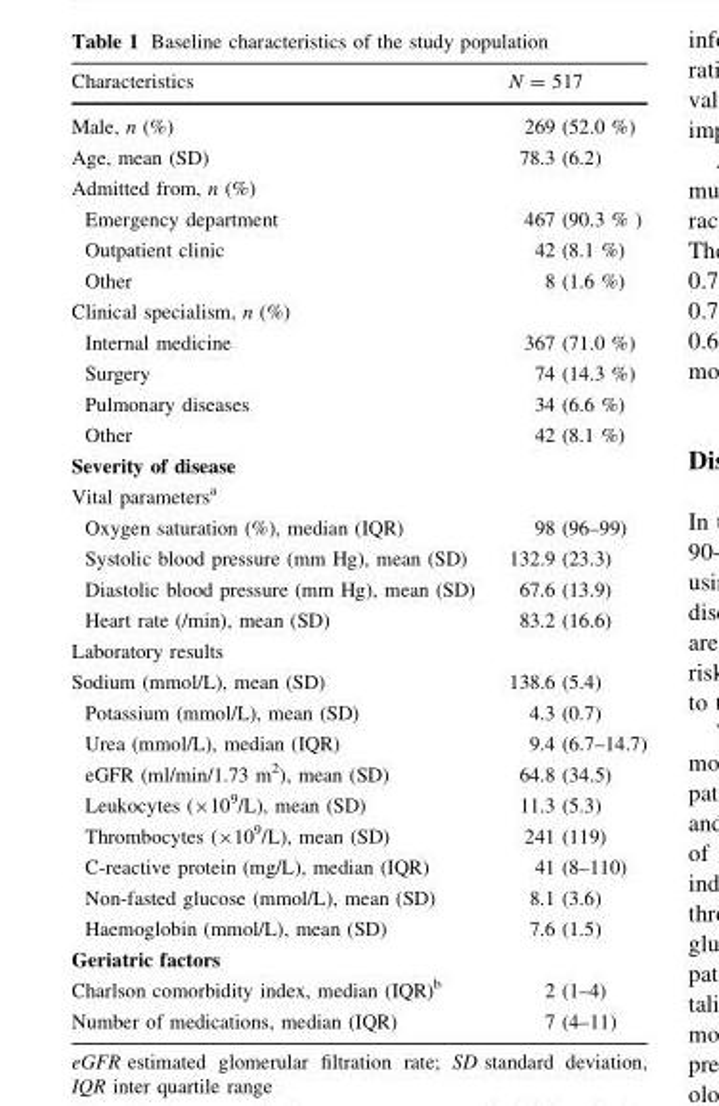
<table><thead><tr><td>Characteristics</td><td>N = 517</td></tr></thead><tbody><tr><td>Male, n (%)</td><td>269 (52.0 %)</td></tr><tr><td>Age, mean (SD)</td><td>78.3 (6.2)</td></tr><tr><td colspan="2">Admitted from, n (%)</td></tr><tr><td>Emergency department</td><td>467 (90.3 % )</td></tr><tr><td>Outpatient clinic</td><td>42 (8.1 %)</td></tr><tr><td>Other</td><td>8 (1.6 %)</td></tr><tr><td colspan="2">Clinical specialism, n (%)</td></tr><tr><td>Internal medicine</td><td>367 (71.0 %)</td></tr><tr><td>Surgery</td><td>74 (14.3 %)</td></tr><tr><td>Pulmonary diseases</td><td>34 (6.6 %)</td></tr><tr><td>Other</td><td>42 (8.1 %)</td></tr><tr><td colspan="2">Severity of disease</td></tr><tr><td colspan="2">Vital parameters<sup>a</sup></td></tr><tr><td>Oxygen saturation (%), median (IQR)</td><td>98 (96–99)</td></tr><tr><td>Systolic blood pressure (mm Hg), mean (SD)</td><td>132.9 (23.3)</td></tr><tr><td>Diastolic blood pressure (mm Hg), mean (SD)</td><td>67.6 (13.9)</td></tr><tr><td>Heart rate (/min), mean (SD)</td><td>83.2 (16.6)</td></tr><tr><td colspan="2">Laboratory results</td></tr><tr><td>Sodium (mmol/L), mean (SD)</td><td>138.6 (5.4)</td></tr><tr><td>Potassium (mmol/L), mean (SD)</td><td>4.3 (0.7)</td></tr><tr><td>Urea (mmol/L), median (IQR)</td><td>9.4 (6.7–14.7)</td></tr><tr><td>eGFR (ml/min/1.73 m<sup>2</sup>), mean (SD)</td><td>64.8 (34.5)</td></tr><tr><td>Leukocytes (×10<sup>9</sup>/L), mean (SD)</td><td>11.3 (5.3)</td></tr><tr><td>Thrombocytes (×10<sup>9</sup>/L), mean (SD)</td><td>241 (119)</td></tr><tr><td>C-reactive protein (mg/L), median (IQR)</td><td>41 (8–110)</td></tr><tr><td>Non-fasted glucose (mmol/L), mean (SD)</td><td>8.1 (3.6)</td></tr><tr><td>Haemoglobin (mmol/L), mean (SD)</td><td>7.6 (1.5)</td></tr><tr><td colspan="2">Geriatric factors</td></tr><tr><td>Charlson comorbidity index, median (IQR)<sup>b</sup></td><td>2 (1–4)</td></tr><tr><td>Number of medications, median (IQR)</td><td>7 (4–11)</td></tr></tbody></table>